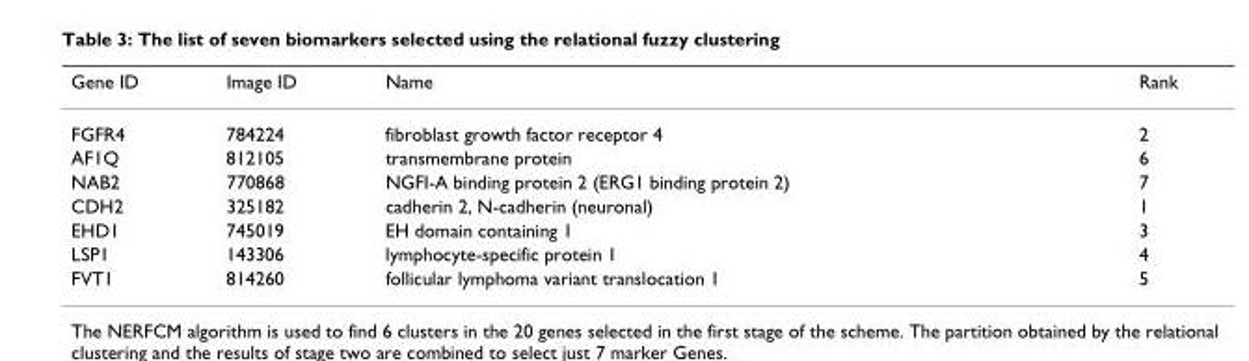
<table><thead><tr><td>Gene ID</td><td>Image ID</td><td>Name</td><td>Rank</td></tr></thead><tbody><tr><td>FGFR4</td><td>784224</td><td>fibroblast growth factor receptor 4</td><td>2</td></tr><tr><td>AF1Q</td><td>812105</td><td>transmembrane protein</td><td>6</td></tr><tr><td>NAB2</td><td>770868</td><td>NGFI-A binding protein 2 (ERG1 binding protein 2)</td><td>7</td></tr><tr><td>CDH2</td><td>325182</td><td>cadherin 2, N-cadherin (neuronal)</td><td>1</td></tr><tr><td>EHD1</td><td>745019</td><td>EH domain containing 1</td><td>3</td></tr><tr><td>LSP1</td><td>143306</td><td>lymphocyte-specific protein 1</td><td>4</td></tr><tr><td>FVT1</td><td>814260</td><td>follicular lymphoma variant translocation 1</td><td>5</td></tr></tbody></table>